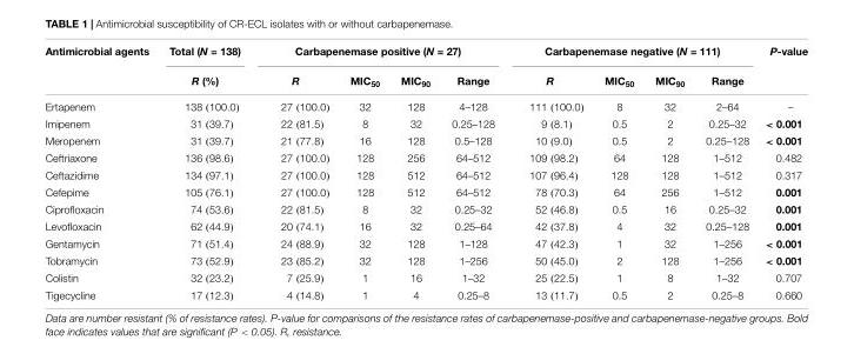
<table><thead><tr><td rowspan="2">Antimicrobial agents</td><td rowspan="2">Total (N = 138) R (%)</td><td colspan="4">Carbapenemase positive (N = 27)</td><td colspan="4">Carbapenemase negative (N = 111)</td><td rowspan="2">P-value</td></tr><tr><td>R</td><td>MIC<sub>50</sub></td><td>MIC<sub>90</sub></td><td>Range</td><td>R</td><td>MIC<sub>50</sub></td><td>MIC<sub>90</sub></td><td>Range</td></tr></thead><tbody><tr><td>Ertapenem</td><td>138 (100.0)</td><td>27 (100.0)</td><td>32</td><td>128</td><td>4–128</td><td>111 (100.0)</td><td>8</td><td>32</td><td>2–64</td><td>–</td></tr><tr><td>Imipenem</td><td>31 (39.7)</td><td>22 (81.5)</td><td>8</td><td>32</td><td>0.25–128</td><td>9 (8.1)</td><td>0.5</td><td>2</td><td>0.25–32</td><td>&lt; 0.001</td></tr><tr><td>Meropenem</td><td>31 (39.7)</td><td>21 (77.8)</td><td>16</td><td>128</td><td>0.5–128</td><td>10 (9.0)</td><td>0.5</td><td>2</td><td>0.25–128</td><td>&lt; 0.001</td></tr><tr><td>Ceftriaxone</td><td>136 (98.6)</td><td>27 (100.0)</td><td>128</td><td>256</td><td>64–512</td><td>109 (98.2)</td><td>64</td><td>128</td><td>1–512</td><td>0.482</td></tr><tr><td>Ceftazidime</td><td>134 (97.1)</td><td>27 (100.0)</td><td>128</td><td>512</td><td>64–512</td><td>107 (96.4)</td><td>128</td><td>128</td><td>1–512</td><td>0.317</td></tr><tr><td>Cefepime</td><td>105 (76.1)</td><td>27 (100.0)</td><td>128</td><td>512</td><td>64–512</td><td>78 (70.3)</td><td>64</td><td>256</td><td>1–512</td><td>0.001</td></tr><tr><td>Ciprofloxacin</td><td>74 (53.6)</td><td>22 (81.5)</td><td>8</td><td>32</td><td>0.25–32</td><td>52 (46.8)</td><td>0.5</td><td>16</td><td>0.25–32</td><td>0.001</td></tr><tr><td>Levofloxacin</td><td>62 (44.9)</td><td>20 (74.1)</td><td>16</td><td>32</td><td>0.25–64</td><td>42 (37.8)</td><td>4</td><td>32</td><td>0.25–128</td><td>0.001</td></tr><tr><td>Gentamycin</td><td>71 (51.4)</td><td>24 (88.9)</td><td>32</td><td>128</td><td>1–128</td><td>47 (42.3)</td><td>1</td><td>32</td><td>1–256</td><td>&lt; 0.001</td></tr><tr><td>Tobramycin</td><td>73 (52.9)</td><td>23 (85.2)</td><td>32</td><td>128</td><td>1–256</td><td>50 (45.0)</td><td>2</td><td>128</td><td>1–256</td><td>&lt; 0.001</td></tr><tr><td>Colistin</td><td>32 (23.2)</td><td>7 (25.9)</td><td>1</td><td>16</td><td>1–32</td><td>25 (22.5)</td><td>1</td><td>8</td><td>1–32</td><td>0.707</td></tr><tr><td>Tigecycline</td><td>17 (12.3)</td><td>4 (14.8)</td><td>1</td><td>4</td><td>0.25–8</td><td>13 (11.7)</td><td>0.5</td><td>2</td><td>0.25–8</td><td>0.660</td></tr></tbody></table>